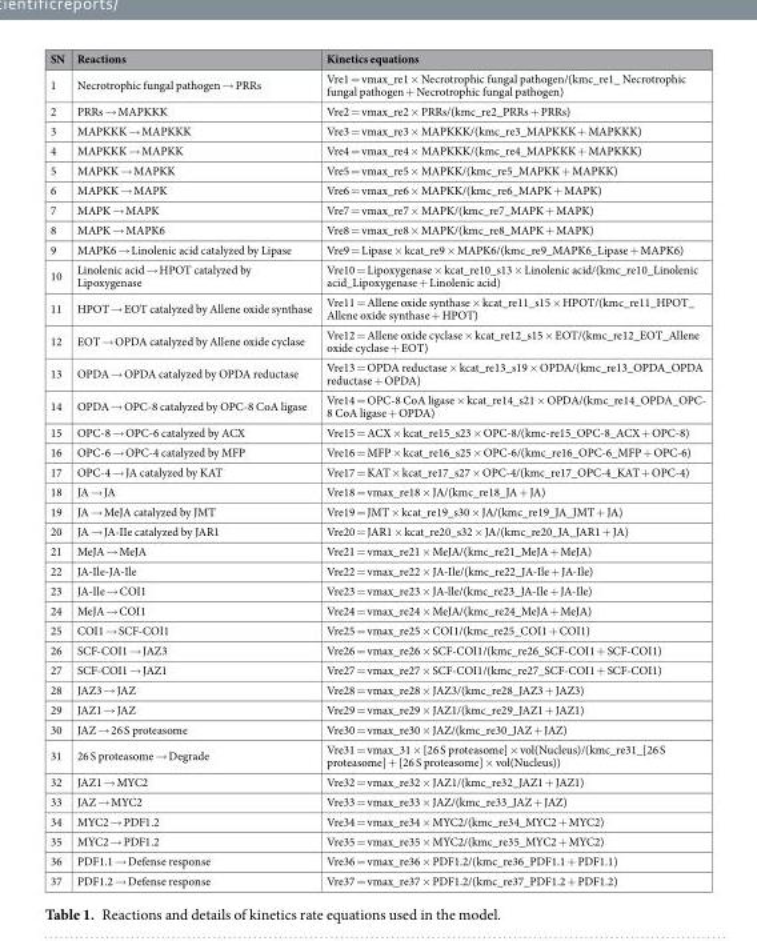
<table><thead><tr><td>SN</td><td>Reactions</td><td>Kinetics equations</td></tr></thead><tbody><tr><td>1</td><td>Necrotrophic fungal pathogen → PRRs</td><td>Vre1 = vmax_re1 × Necrotrophic fungal pathogen/(kmc_re1_ Necrotrophic fungal pathogen + Necrotrophic fungal pathogen)</td></tr><tr><td>2</td><td>PRRs → MAPKKK</td><td>Vre2 = vmax_re2 × PRRs/(kmc_re2_PRRs + PRRs)</td></tr><tr><td>3</td><td>MAPKKK → MAPKKK</td><td>Vre3 = vmax_re3 × MAPKKK/(kmc_re3_MAPKKK + MAPKKK)</td></tr><tr><td>4</td><td>MAPKKK → MAPKK</td><td>Vre4 = vmax_re4 × MAPKKK/(kmc_re4_MAPKKK + MAPKKK)</td></tr><tr><td>5</td><td>MAPKK → MAPKK</td><td>Vre5 = vmax_re5 × MAPKK/(kmc_re5_MAPKK + MAPKK)</td></tr><tr><td>6</td><td>MAPKK → MAPK</td><td>Vre6 = vmax_re6 × MAPKK/(kmc_re6_MAPK + MAPK)</td></tr><tr><td>7</td><td>MAPK → MAPK</td><td>Vre7 = vmax_re7 × MAPK/(kmc_re7_MAPK + MAPK)</td></tr><tr><td>8</td><td>MAPK → MAPK6</td><td>Vre8 = vmax_re8 × MAPK/(kmc_re8_MAPK + MAPK)</td></tr><tr><td>9</td><td>MAPK6 → Linolenic acid catalyzed by Lipase</td><td>Vre9 = Lipase × kcat_re9 × MAPK6/(kmc_re9_MAPK6_Lipase + MAPK6)</td></tr><tr><td>10</td><td>Linolenic acid → HPOT catalyzed by Lipoxygenase</td><td>Vre10 = Lipoxygenase × kcat_re10_s13 × Linolenic acid/(kmc_re10_Linolenic acid_Lipoxygenase + Linolenic acid)</td></tr><tr><td>11</td><td>HPOT → EOT catalyzed by Allene oxide synthase</td><td>Vre11 = Allene oxide synthase × kcat_re11_s15 × HPOT/(kmc_re11_HPOT_ Allene oxide synthase + HPOT)</td></tr><tr><td>12</td><td>EOT → OPDA catalyzed by Allene oxide cyclase</td><td>Vre12 = Allene oxide cyclase × kcat_re12_s15 × EOT/(kmc_re12_EOT_Allene oxide cyclase + EOT)</td></tr><tr><td>13</td><td>OPDA → OPDA catalyzed by OPDA reductase</td><td>Vre13 = OPDA reductase × kcat_re13_s19 × OPDA/(kmc_re13_OPDA_OPDA reductase + OPDA)</td></tr><tr><td>14</td><td>OPDA → OPC-8 catalyzed by OPC-8 CoA ligase</td><td>Vre14 = OPC-8 CoA ligase × kcat_re14_s21 × OPDA/(kmc_re14_OPDA_OPC- 8 CoA ligase + OPDA)</td></tr><tr><td>15</td><td>OPC-8 → OPC-6 catalyzed by ACX</td><td>Vre15 = ACX × kcat_re15_s23 × OPC-8/(kmc-re15_OPC-8_ACX + OPC-8)</td></tr><tr><td>16</td><td>OPC-6 → OPC-4 catalyzed by MFP</td><td>Vre16 = MFP × kcat_re16_s25 × OPC-6/(kmc_re16_OPC-6_MFP + OPC-6)</td></tr><tr><td>17</td><td>OPC-4 → JA catalyzed by KAT</td><td>Vre17 = KAT × kcat_re17_s27 × OPC-4/(kmc_re17_OPC-4_KAT + OPC-4)</td></tr><tr><td>18</td><td>JA → JA</td><td>Vre18 = vmax_re18 × JA/(kmc_re18_JA + JA)</td></tr><tr><td>19</td><td>JA → MeJA catalyzed by JMT</td><td>Vre19 = JMT × kcat_re19_s30 × JA/(kmc_re19_JA_JMT + JA)</td></tr><tr><td>20</td><td>JA → JA-IIe catalyzed by JAR1</td><td>Vre20 = JAR1 × kcat_re20_s32 × JA/(kmc_re20_JA_JAR1 + JA)</td></tr><tr><td>21</td><td>MeJA → MeJA</td><td>Vre21 = vmax_re21 × MeJA/(kmc_re21_MeJA + MeJA)</td></tr><tr><td>22</td><td>JA-Ile-JA-Ile</td><td>Vre22 = vmax_re22 × JA-Ile/(kmc_re22_JA-Ile + JA-Ile)</td></tr><tr><td>23</td><td>JA-Ile → COI1</td><td>Vre23 = vmax_re23 × JA-lle/(kmc_re23_JA-Ile + JA-Ile)</td></tr><tr><td>24</td><td>MeJA → COI1</td><td>Vre24 = vmax_re24 × MeJA/(kmc_re24_MeJA + MeJA)</td></tr><tr><td>25</td><td>COI1 → SCF-COI1</td><td>Vre25 = vmax_re25 × COI1/(kmc_re25_COI1 + COI1)</td></tr><tr><td>26</td><td>SCF-COI1 → JAZ3</td><td>Vre26 = vmax_re26 × SCF-COI1/(kmc_re26_SCF-COI1 + SCF-COI1)</td></tr><tr><td>27</td><td>SCF-COI1 → JAZ1</td><td>Vre27 = vmax_re27 × SCF-COI1/(kmc_re27_SCF-COI1 + SCF-COI1)</td></tr><tr><td>28</td><td>JAZ3 → JAZ</td><td>Vre28 = vmax_re28 × JAZ3/(kmc_re28_JAZ3 + JAZ3)</td></tr><tr><td>29</td><td>JAZ1 → JAZ</td><td>Vre29 = vmax_re29 × JAZ1/(kmc_re29_JAZ1 + JAZ1)</td></tr><tr><td>30</td><td>JAZ → 26 S proteasome</td><td>Vre30 = vmax_re30 × JAZ/(kmc_re30_JAZ + JAZ)</td></tr><tr><td>31</td><td>26 S proteasome → Degrade</td><td>Vre31 = vmax_31 × [26 S proteasome] × vol(Nucleus)/(kmc_re31_[26 S proteasome] + [26 S proteasome] × vol(Nucleus))</td></tr><tr><td>32</td><td>JAZ1 → MYC2</td><td>Vre32 = vmax_re32 × JAZ1/(kmc_re32_JAZ1 + JAZ1)</td></tr><tr><td>33</td><td>JAZ → MYC2</td><td>Vre33 = vmax_re33 × JAZ/(kmc_re33_JAZ + JAZ)</td></tr><tr><td>34</td><td>MYC2 → PDF1.2</td><td>Vre34 = vmax_re34 × MYC2/(kmc_re34_MYC2 + MYC2)</td></tr><tr><td>35</td><td>MYC2 → PDF1.2</td><td>Vre35 = vmax_re35 × MYC2/(kmc_re35_MYC2 + MYC2)</td></tr><tr><td>36</td><td>PDF1.1 → Defense response</td><td>Vre36 = vmax_re36 × PDF1.2/(kmc_re36_PDF1.1 + PDF1.1)</td></tr><tr><td>37</td><td>PDF1.2 → Defense response</td><td>Vre37 = vmax_re37 × PDF1.2/(kmc_re37_PDF1.2 + PDF1.2)</td></tr></tbody></table>